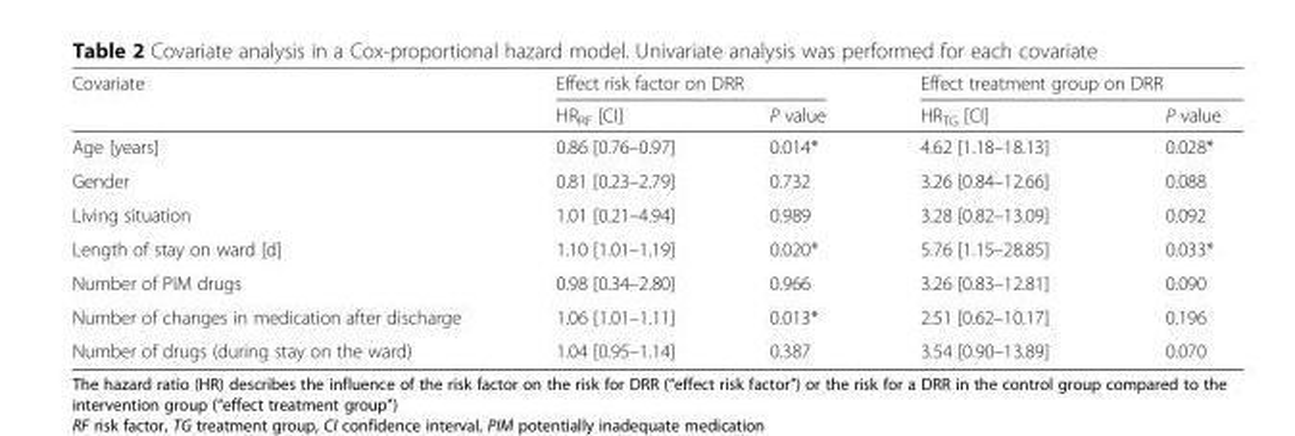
<table><thead><tr><td rowspan="2">Covariate</td><td colspan="2">Effect risk factor on DRR</td><td colspan="2">Effect treatment group on DRR</td></tr><tr><td>HR<sub>RF</sub> [CI]</td><td>P value</td><td>HR<sub>TG</sub> [CI]</td><td>P value</td></tr></thead><tbody><tr><td>Age [years]</td><td>0.86 [0.76–0.97]</td><td>0.014*</td><td>4.62 [1.18–18.13]</td><td>0.028*</td></tr><tr><td>Gender</td><td>0.81 [0.23–2.79]</td><td>0.732</td><td>3.26 [0.84–12.66]</td><td>0.088</td></tr><tr><td>Living situation</td><td>1.01 [0.21–4.94]</td><td>0.989</td><td>3.28 [0.82–13.09]</td><td>0.092</td></tr><tr><td>Length of stay on ward [d]</td><td>1.10 [1.01–1.19]</td><td>0.020*</td><td>5.76 [1.15–28.85]</td><td>0.033*</td></tr><tr><td>Number of PIM drugs</td><td>0.98 [0.34–2.80]</td><td>0.966</td><td>3.26 [0.83–12.81]</td><td>0.090</td></tr><tr><td>Number of changes in medication after discharge</td><td>1.06 [1.01–1.11]</td><td>0.013*</td><td>2.51 [0.62–10.17]</td><td>0.196</td></tr><tr><td>Number of drugs (during stay on the ward)</td><td>1.04 [0.95–1.14]</td><td>0.387</td><td>3.54 [0.90–13.89]</td><td>0.070</td></tr></tbody></table>